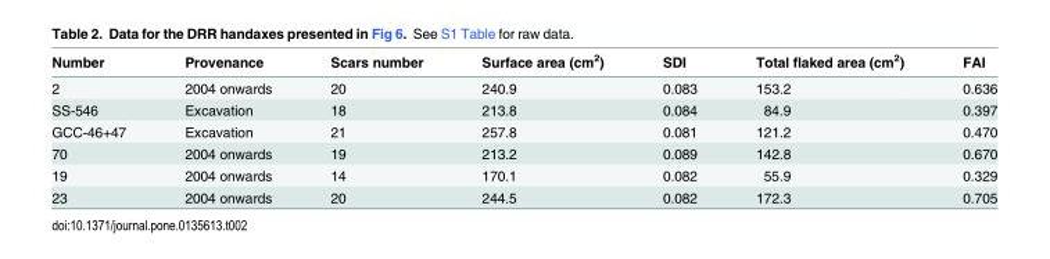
<table><thead><tr><td>Number</td><td>Provenance</td><td>Scars number</td><td>Surface area (cm<sup>2</sup>)</td><td>SDI</td><td>Total flaked area (cm<sup>2</sup>)</td><td>FAI</td></tr></thead><tbody><tr><td>2</td><td>2004 onwards</td><td>20</td><td>240.9</td><td>0.083</td><td>153.2</td><td>0.636</td></tr><tr><td>SS-546</td><td>Excavation</td><td>18</td><td>213.8</td><td>0.084</td><td>84.9</td><td>0.397</td></tr><tr><td>GCC-46+47</td><td>Excavation</td><td>21</td><td>257.8</td><td>0.081</td><td>121.2</td><td>0.470</td></tr><tr><td>70</td><td>2004 onwards</td><td>19</td><td>213.2</td><td>0.089</td><td>142.8</td><td>0.670</td></tr><tr><td>19</td><td>2004 onwards</td><td>14</td><td>170.1</td><td>0.082</td><td>55.9</td><td>0.329</td></tr><tr><td>23</td><td>2004 onwards</td><td>20</td><td>244.5</td><td>0.082</td><td>172.3</td><td>0.705</td></tr></tbody></table>